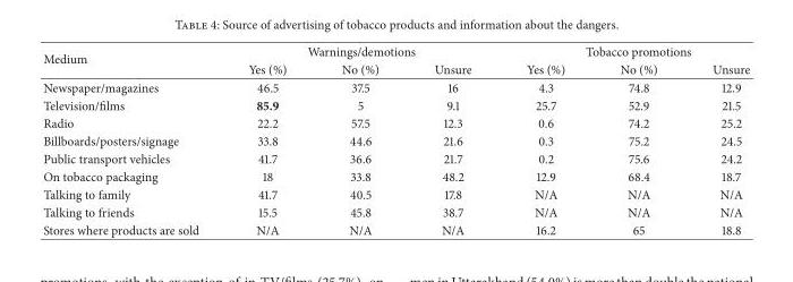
<table><thead><tr><td rowspan="2">Medium</td><td colspan="3">Warnings/demotions</td><td colspan="3">Tobacco promotions</td></tr><tr><td>Yes (%)</td><td>No (%)</td><td>Unsure</td><td>Yes (%)</td><td>No (%)</td><td>Unsure</td></tr></thead><tbody><tr><td>Newspaper/magazines</td><td>46.5</td><td>37.5</td><td>16</td><td>4.3</td><td>74.8</td><td>12.9</td></tr><tr><td>Television/films</td><td>85.9</td><td>5</td><td>9.1</td><td>25.7</td><td>52.9</td><td>21.5</td></tr><tr><td>Radio</td><td>22.2</td><td>57.5</td><td>12.3</td><td>0.6</td><td>74.2</td><td>25.2</td></tr><tr><td>Billboards/posters/signage</td><td>33.8</td><td>44.6</td><td>21.6</td><td>0.3</td><td>75.2</td><td>24.5</td></tr><tr><td>Public transport vehicles</td><td>41.7</td><td>36.6</td><td>21.7</td><td>0.2</td><td>75.6</td><td>24.2</td></tr><tr><td>On tobacco packaging</td><td>18</td><td>33.8</td><td>48.2</td><td>12.9</td><td>68.4</td><td>18.7</td></tr><tr><td>Talking to family</td><td>41.7</td><td>40.5</td><td>17.8</td><td>N/A</td><td>N/A</td><td>N/A</td></tr><tr><td>Talking to friends</td><td>15.5</td><td>45.8</td><td>38.7</td><td>N/A</td><td>N/A</td><td>N/A</td></tr><tr><td>Stores where products are sold</td><td>N/A</td><td>N/A</td><td>N/A</td><td>16.2</td><td>65</td><td>18.8</td></tr></tbody></table>